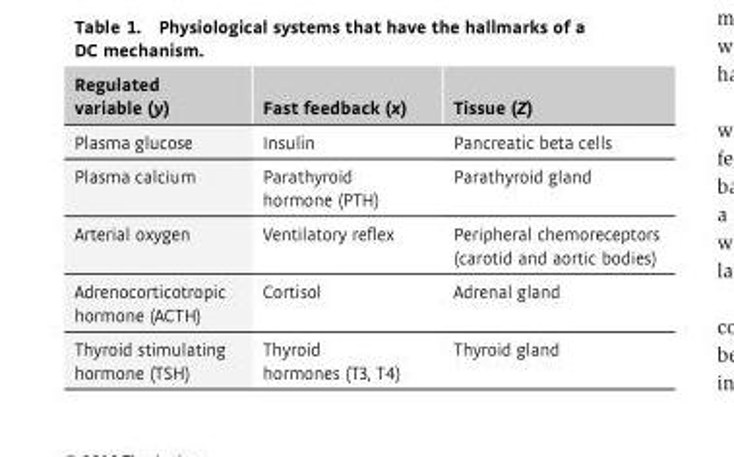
<table><thead><tr><td>Regulated variable (y)</td><td>Fast feedback (x)</td><td>Tissue (Z)</td></tr></thead><tbody><tr><td>Plasma glucose</td><td>Insulin</td><td>Pancreatic beta cells</td></tr><tr><td>Plasma calcium</td><td>Parathyroid hormone (PTH)</td><td>Parathyroid gland</td></tr><tr><td>Arterial oxygen</td><td>Ventilatory reflex</td><td>Peripheral chemoreceptors (carotid and aortic bodies)</td></tr><tr><td>Adrenocorticotropic hormone (ACTH)</td><td>Cortisol</td><td>Adrenal gland</td></tr><tr><td>Thyroid stimulating hormone (TSH)</td><td>Thyroid hormones (T3, T4)</td><td>Thyroid gland</td></tr></tbody></table>